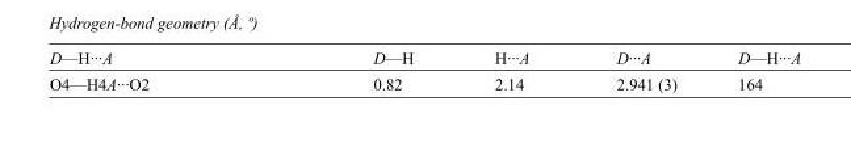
<table><tbody><tr><td>D—H···A</td><td>D—H</td><td>H···A</td><td>D···A</td><td>D—H···A</td></tr><tr><td>O4—H4A···O2</td><td>0.82</td><td>2.14</td><td>2.941 (3)</td><td>164</td></tr></tbody></table>